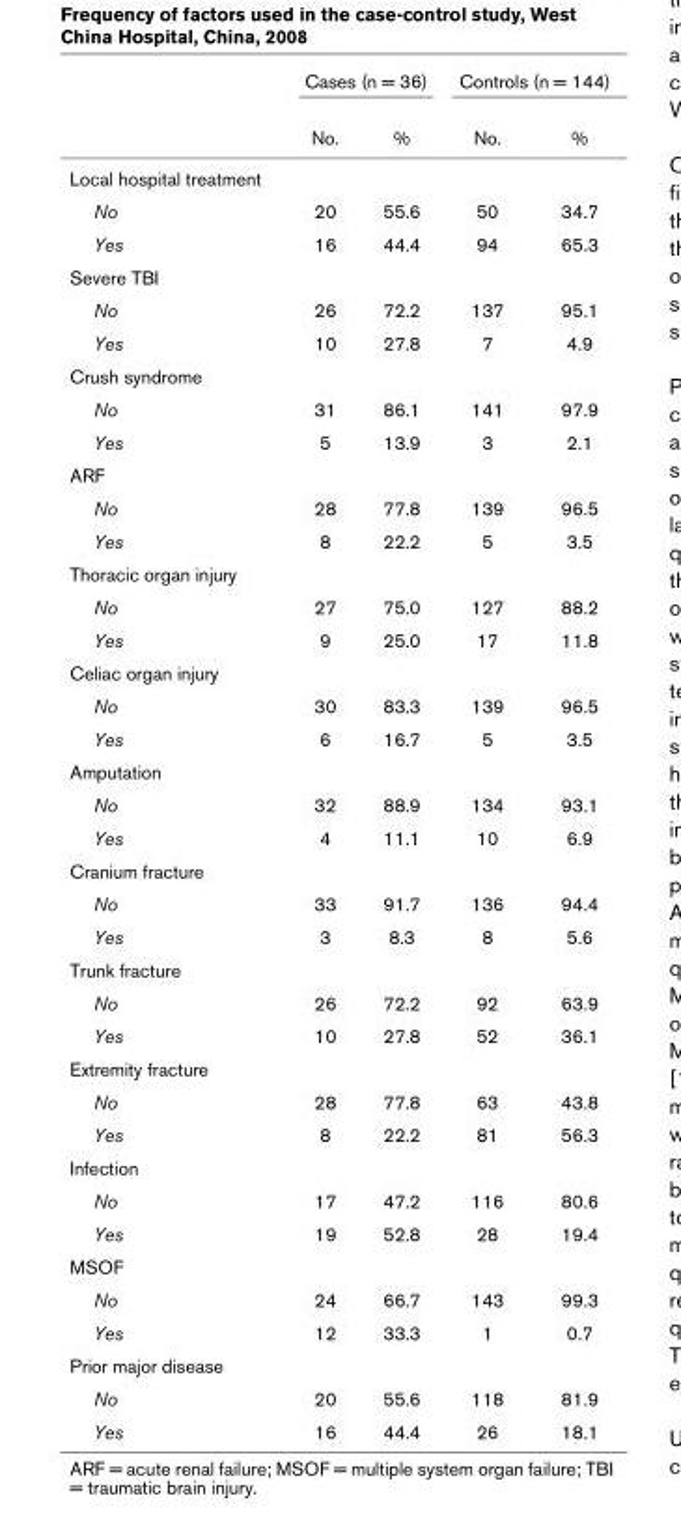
<table><thead><tr><td rowspan="2"></td><td colspan="2">Cases (n = 36)</td><td colspan="2">Controls (n = 144)</td></tr><tr><td>No.</td><td>%</td><td>No.</td><td>%</td></tr></thead><tbody><tr><td colspan="5">Local hospital treatment</td></tr><tr><td>No</td><td>20</td><td>55.6</td><td>50</td><td>34.7</td></tr><tr><td>Yes</td><td>16</td><td>44.4</td><td>94</td><td>65.3</td></tr><tr><td colspan="5">Severe TBI</td></tr><tr><td>No</td><td>26</td><td>72.2</td><td>137</td><td>95.1</td></tr><tr><td>Yes</td><td>10</td><td>27.8</td><td>7</td><td>4.9</td></tr><tr><td colspan="5">Crush syndrome</td></tr><tr><td>No</td><td>31</td><td>86.1</td><td>141</td><td>97.9</td></tr><tr><td>Yes</td><td>5</td><td>13.9</td><td>3</td><td>2.1</td></tr><tr><td colspan="5">ARF</td></tr><tr><td>No</td><td>28</td><td>77.8</td><td>139</td><td>96.5</td></tr><tr><td>Yes</td><td>8</td><td>22.2</td><td>5</td><td>3.5</td></tr><tr><td colspan="5">Thoracic organ injury</td></tr><tr><td>No</td><td>27</td><td>75.0</td><td>127</td><td>88.2</td></tr><tr><td>Yes</td><td>9</td><td>25.0</td><td>17</td><td>11.8</td></tr><tr><td colspan="5">Celiac organ injury</td></tr><tr><td>No</td><td>30</td><td>83.3</td><td>139</td><td>96.5</td></tr><tr><td>Yes</td><td>6</td><td>16.7</td><td>5</td><td>3.5</td></tr><tr><td colspan="5">Amputation</td></tr><tr><td>No</td><td>32</td><td>88.9</td><td>134</td><td>93.1</td></tr><tr><td>Yes</td><td>4</td><td>11.1</td><td>10</td><td>6.9</td></tr><tr><td colspan="5">Cranium fracture</td></tr><tr><td>No</td><td>33</td><td>91.7</td><td>136</td><td>94.4</td></tr><tr><td>Yes</td><td>3</td><td>8.3</td><td>8</td><td>5.6</td></tr><tr><td colspan="5">Trunk fracture</td></tr><tr><td>No</td><td>26</td><td>72.2</td><td>92</td><td>63.9</td></tr><tr><td>Yes</td><td>10</td><td>27.8</td><td>52</td><td>36.1</td></tr><tr><td colspan="5">Extremity fracture</td></tr><tr><td>No</td><td>28</td><td>77.8</td><td>63</td><td>43.8</td></tr><tr><td>Yes</td><td>8</td><td>22.2</td><td>81</td><td>56.3</td></tr><tr><td colspan="5">Infection</td></tr><tr><td>No</td><td>17</td><td>47.2</td><td>116</td><td>80.6</td></tr><tr><td>Yes</td><td>19</td><td>52.8</td><td>28</td><td>19.4</td></tr><tr><td colspan="5">MSOF</td></tr><tr><td>No</td><td>24</td><td>66.7</td><td>143</td><td>99.3</td></tr><tr><td>Yes</td><td>12</td><td>33.3</td><td>1</td><td>0.7</td></tr><tr><td colspan="5">Prior major disease</td></tr><tr><td>No</td><td>20</td><td>55.6</td><td>118</td><td>81.9</td></tr><tr><td>Yes</td><td>16</td><td>44.4</td><td>26</td><td>18.1</td></tr></tbody></table>